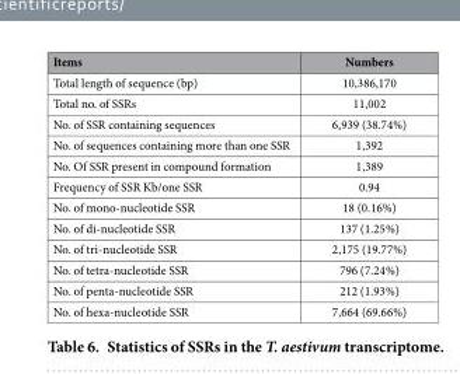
<table><thead><tr><td>Items</td><td>Numbers</td></tr></thead><tbody><tr><td>Total length of sequence (bp)</td><td>10,386,170</td></tr><tr><td>Total no. of SSRs</td><td>11,002</td></tr><tr><td>No. of SSR containing sequences</td><td>6,939 (38.74%)</td></tr><tr><td>No. of sequences containing more than one SSR</td><td>1,392</td></tr><tr><td>No. Of SSR present in compound formation</td><td>1,389</td></tr><tr><td>Frequency of SSR Kb/one SSR</td><td>0.94</td></tr><tr><td>No. of mono-nucleotide SSR</td><td>18 (0.16%)</td></tr><tr><td>No. of di-nucleotide SSR</td><td>137 (1.25%)</td></tr><tr><td>No. of tri-nucleotide SSR</td><td>2,175 (19.77%)</td></tr><tr><td>No. of tetra-nucleotide SSR</td><td>796 (7.24%)</td></tr><tr><td>No. of penta-nucleotide SSR</td><td>212 (1.93%)</td></tr><tr><td>No. of hexa-nucleotide SSR</td><td>7,664 (69.66%)</td></tr></tbody></table>